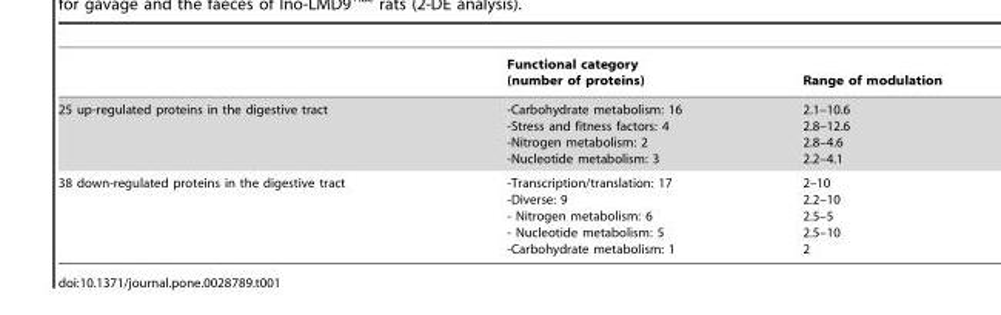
<table><thead><tr><td></td><td>Functional category (number of proteins)</td><td>Range of modulation</td></tr></thead><tbody><tr><td>25 up-regulated proteins in the digestive tract</td><td>-Carbohydrate metabolism: 16 -Stress and fitness factors: 4 -Nitrogen metabolism: 2 -Nucleotide metabolism: 3</td><td>2.1–10.6 2.8–12.6 2.8–4.6 2.2–4.1</td></tr><tr><td>38 down-regulated proteins in the digestive tract</td><td>-Transcription/translation: 17 -Diverse: 9 - Nitrogen metabolism: 6 - Nucleotide metabolism: 5 -Carbohydrate metabolism: 1</td><td>2–10 2.2–10 2.5–5 2.5–10 2</td></tr></tbody></table>